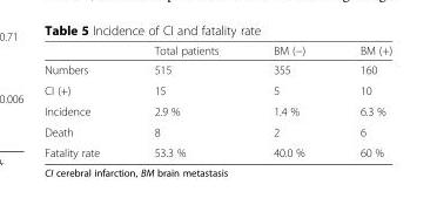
<table><thead><tr><td></td><td>Total patients</td><td>BM (−)</td><td>BM (+)</td></tr></thead><tbody><tr><td>Numbers</td><td>515</td><td>355</td><td>160</td></tr><tr><td>CI (+)</td><td>15</td><td>5</td><td>10</td></tr><tr><td>Incidence</td><td>2.9 %</td><td>1.4 %</td><td>6.3 %</td></tr><tr><td>Death</td><td>8</td><td>2</td><td>6</td></tr><tr><td>Fatality rate</td><td>53.3 %</td><td>40.0 %</td><td>60 %</td></tr></tbody></table>